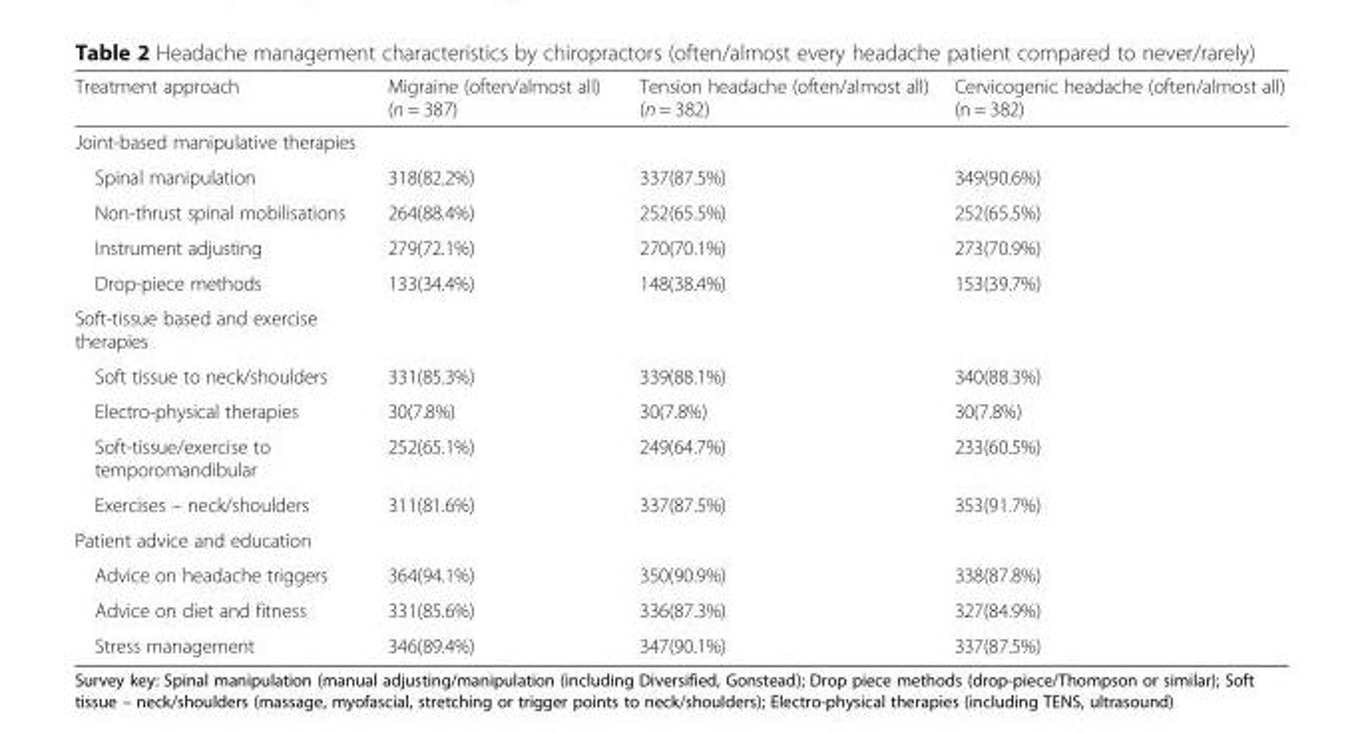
<table><thead><tr><td>Treatment approach</td><td>Migraine (often/almost all) (n = 387)</td><td>Tension headache (often/almost all) (n = 382)</td><td>Cervicogenic headache (often/almost all) (n = 382)</td></tr></thead><tbody><tr><td colspan="4">Joint-based manipulative therapies</td></tr><tr><td>Spinal manipulation</td><td>318(82.2%)</td><td>337(87.5%)</td><td>349(90.6%)</td></tr><tr><td>Non-thrust spinal mobilisations</td><td>264(88.4%)</td><td>252(65.5%)</td><td>252(65.5%)</td></tr><tr><td>Instrument adjusting</td><td>279(72.1%)</td><td>270(70.1%)</td><td>273(70.9%)</td></tr><tr><td>Drop-piece methods</td><td>133(34.4%)</td><td>148(38.4%)</td><td>153(39.7%)</td></tr><tr><td colspan="4">Soft-tissue based and exercise therapies</td></tr><tr><td>Soft tissue to neck/shoulders</td><td>331(85.3%)</td><td>339(88.1%)</td><td>340(88.3%)</td></tr><tr><td>Electro-physical therapies</td><td>30(7.8%)</td><td>30(7.8%)</td><td>30(7.8%)</td></tr><tr><td>Soft-tissue/exercise to temporomandibular</td><td>252(65.1%)</td><td>249(64.7%)</td><td>233(60.5%)</td></tr><tr><td>Exercises – neck/shoulders</td><td>311(81.6%)</td><td>337(87.5%)</td><td>353(91.7%)</td></tr><tr><td colspan="4">Patient advice and education</td></tr><tr><td>Advice on headache triggers</td><td>364(94.1%)</td><td>350(90.9%)</td><td>338(87.8%)</td></tr><tr><td>Advice on diet and fitness</td><td>331(85.6%)</td><td>336(87.3%)</td><td>327(84.9%)</td></tr><tr><td>Stress management</td><td>346(89.4%)</td><td>347(90.1%)</td><td>337(87.5%)</td></tr></tbody></table>